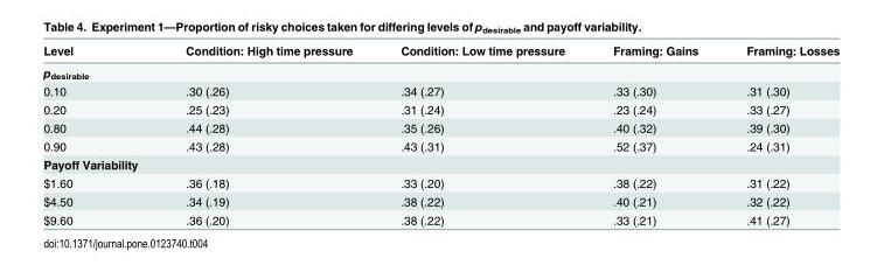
<table><thead><tr><td>Level</td><td>Condition: High time pressure</td><td>Condition: Low time pressure</td><td>Framing: Gains</td><td>Framing: Losses</td></tr></thead><tbody><tr><td colspan="5">p<sub>desirable</sub></td></tr><tr><td>0.10</td><td>.30 (.26)</td><td>.34 (.27)</td><td>.33 (.30)</td><td>.31 (.30)</td></tr><tr><td>0.20</td><td>.25 (.23)</td><td>.31 (.24)</td><td>.23 (.24)</td><td>.33 (.27)</td></tr><tr><td>0.80</td><td>.44 (.28)</td><td>.35 (.26)</td><td>.40 (.32)</td><td>.39 (.30)</td></tr><tr><td>0.90</td><td>.43 (.28)</td><td>.43 (.31)</td><td>.52 (.37)</td><td>.24 (.31)</td></tr><tr><td colspan="5">Payoff Variability</td></tr><tr><td>$1.60</td><td>.36 (.18)</td><td>.33 (.20)</td><td>.38 (.22)</td><td>.31 (.22)</td></tr><tr><td>$4.50</td><td>.34 (.19)</td><td>.38 (.22)</td><td>.40 (.21)</td><td>.32 (.22)</td></tr><tr><td>$9.60</td><td>.36 (.20)</td><td>.38 (.22)</td><td>.33 (.21)</td><td>.41 (.27)</td></tr></tbody></table>